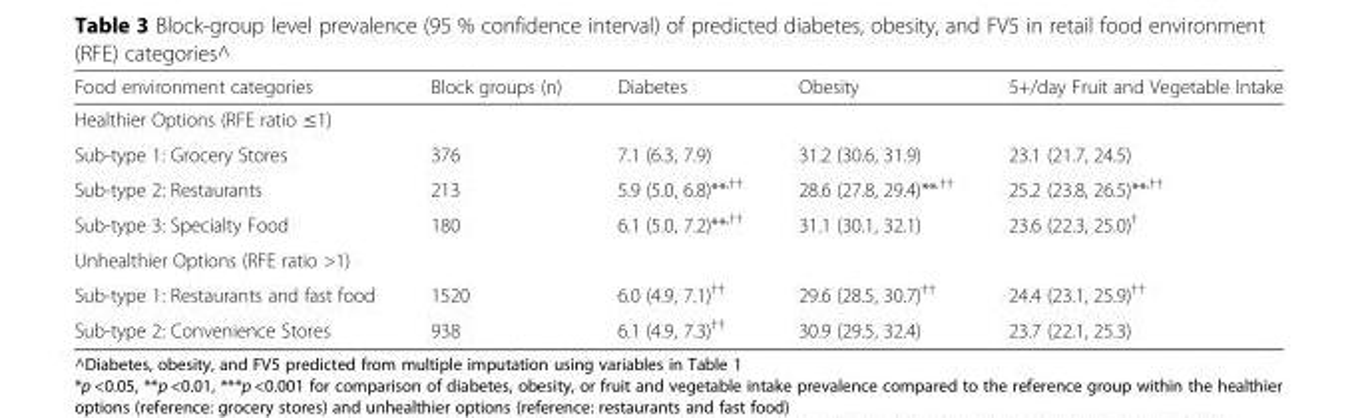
<table><thead><tr><td>Food environment categories</td><td>Block groups (n)</td><td>Diabetes</td><td>Obesity</td><td>5+/day Fruit and Vegetable Intake</td></tr></thead><tbody><tr><td colspan="5">Healthier Options (RFE ratio ≤1)</td></tr><tr><td>Sub-type 1: Grocery Stores</td><td>376</td><td>7.1 (6.3, 7.9)</td><td>31.2 (30.6, 31.9)</td><td>23.1 (21.7, 24.5)</td></tr><tr><td>Sub-type 2: Restaurants</td><td>213</td><td>5.9 (5.0, 6.8)**<sup>,††</sup></td><td>28.6 (27.8, 29.4)**<sup>,††</sup></td><td>25.2 (23.8, 26.5)**<sup>,††</sup></td></tr><tr><td>Sub-type 3: Specialty Food</td><td>180</td><td>6.1 (5.0, 7.2)**<sup>,††</sup></td><td>31.1 (30.1, 32.1)</td><td>23.6 (22.3, 25.0)<sup>†</sup></td></tr><tr><td colspan="5">Unhealthier Options (RFE ratio &gt;1)</td></tr><tr><td>Sub-type 1: Restaurants and fast food</td><td>1520</td><td>6.0 (4.9, 7.1)<sup>††</sup></td><td>29.6 (28.5, 30.7)<sup>††</sup></td><td>24.4 (23.1, 25.9)<sup>††</sup></td></tr><tr><td>Sub-type 2: Convenience Stores</td><td>938</td><td>6.1 (4.9, 7.3)<sup>††</sup></td><td>30.9 (29.5, 32.4)</td><td>23.7 (22.1, 25.3)</td></tr></tbody></table>